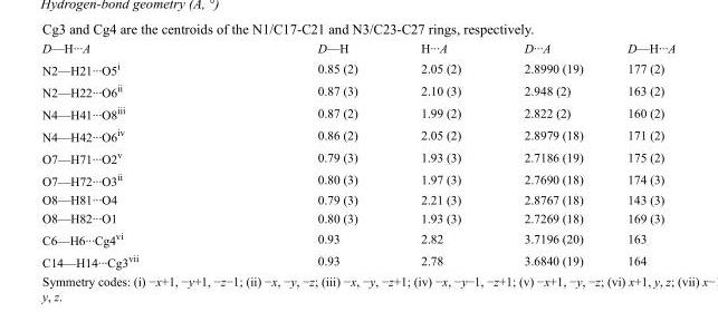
<table><tbody><tr><td>D—H···A</td><td>D—H</td><td>H···A</td><td>D···A</td><td>D—H···A</td></tr><tr><td>N2—H21···O5<sup>i</sup></td><td>0.85 (2)</td><td>2.05 (2)</td><td>2.8990 (19)</td><td>177 (2)</td></tr><tr><td>N2—H22···O6<sup>ii</sup></td><td>0.87 (3)</td><td>2.10 (3)</td><td>2.948 (2)</td><td>163 (2)</td></tr><tr><td>N4—H41···O8<sup>iii</sup></td><td>0.87 (2)</td><td>1.99 (2)</td><td>2.822 (2)</td><td>160 (2)</td></tr><tr><td>N4—H42···O6<sup>iv</sup></td><td>0.86 (2)</td><td>2.05 (2)</td><td>2.8979 (18)</td><td>171 (2)</td></tr><tr><td>O7—H71···O2<sup>v</sup></td><td>0.79 (3)</td><td>1.93 (3)</td><td>2.7186 (19)</td><td>175 (2)</td></tr><tr><td>O7—H72···O3<sup>ii</sup></td><td>0.80 (3)</td><td>1.97 (3)</td><td>2.7690 (18)</td><td>174 (3)</td></tr><tr><td>O8—H81···O4</td><td>0.79 (3)</td><td>2.21 (3)</td><td>2.8767 (18)</td><td>143 (3)</td></tr><tr><td>O8—H82···O1</td><td>0.80 (3)</td><td>1.93 (3)</td><td>2.7269 (18)</td><td>169 (3)</td></tr><tr><td>C6—H6···Cg4<sup>vi</sup></td><td>0.93</td><td>2.82</td><td>3.7196 (20)</td><td>163</td></tr><tr><td>C14—H14···Cg3<sup>vii</sup></td><td>0.93</td><td>2.78</td><td>3.6840 (19)</td><td>164</td></tr></tbody></table>